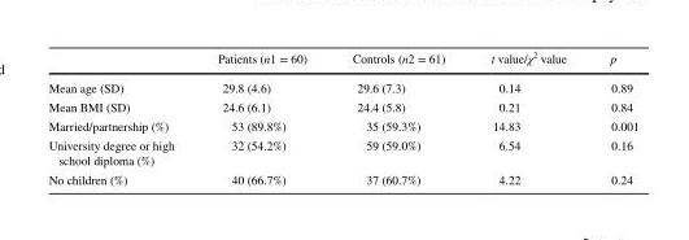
<table><thead><tr><td></td><td>Patients (n1 = 60)</td><td>Controls (n2 = 61)</td><td>t value/χ<sup>2</sup> value</td><td>p</td></tr></thead><tbody><tr><td>Mean age (SD)</td><td>29.8 (4.6)</td><td>29.6 (7.3)</td><td>0.14</td><td>0.89</td></tr><tr><td>Mean BMI (SD)</td><td>24.6 (6.1)</td><td>24.4 (5.8)</td><td>0.21</td><td>0.84</td></tr><tr><td>Married/partnership (%)</td><td>53 (89.8%)</td><td>35 (59.3%)</td><td>14.83</td><td>0.001</td></tr><tr><td>University degree or high school diploma (%)</td><td>32 (54.2%)</td><td>59 (59.0%)</td><td>6.54</td><td>0.16</td></tr><tr><td>No children (%)</td><td>40 (66.7%)</td><td>37 (60.7%)</td><td>4.22</td><td>0.24</td></tr></tbody></table>